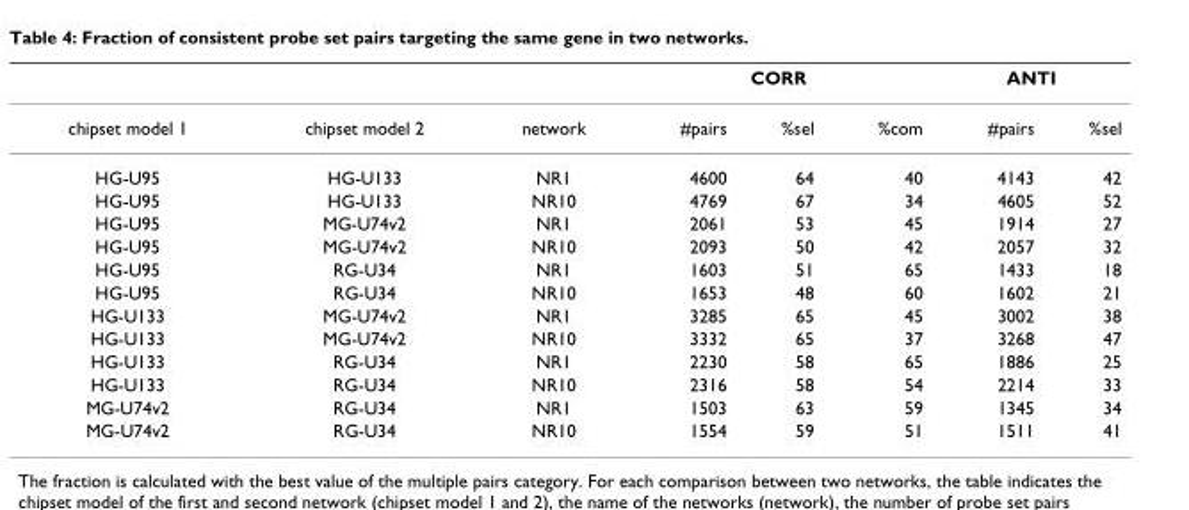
<table><thead><tr><td rowspan="2">chipset model 1</td><td rowspan="2">chipset model 2</td><td rowspan="2">network</td><td colspan="3">CORR</td><td colspan="2">ANTI</td></tr><tr><td>#pairs</td><td>%sel</td><td>%com</td><td>#pairs</td><td>%sel</td></tr></thead><tbody><tr><td>HG-U95</td><td>HG-U133</td><td>NR1</td><td>4600</td><td>64</td><td>40</td><td>4143</td><td>42</td></tr><tr><td>HG-U95</td><td>HG-U133</td><td>NR10</td><td>4769</td><td>67</td><td>34</td><td>4605</td><td>52</td></tr><tr><td>HG-U95</td><td>MG-U74v2</td><td>NR1</td><td>2061</td><td>53</td><td>45</td><td>1914</td><td>27</td></tr><tr><td>HG-U95</td><td>MG-U74v2</td><td>NR10</td><td>2093</td><td>50</td><td>42</td><td>2057</td><td>32</td></tr><tr><td>HG-U95</td><td>RG-U34</td><td>NR1</td><td>1603</td><td>51</td><td>65</td><td>1433</td><td>18</td></tr><tr><td>HG-U95</td><td>RG-U34</td><td>NR10</td><td>1653</td><td>48</td><td>60</td><td>1602</td><td>21</td></tr><tr><td>HG-U133</td><td>MG-U74v2</td><td>NR1</td><td>3285</td><td>65</td><td>45</td><td>3002</td><td>38</td></tr><tr><td>HG-U133</td><td>MG-U74v2</td><td>NR10</td><td>3332</td><td>65</td><td>37</td><td>3268</td><td>47</td></tr><tr><td>HG-U133</td><td>RG-U34</td><td>NR1</td><td>2230</td><td>58</td><td>65</td><td>1886</td><td>25</td></tr><tr><td>HG-U133</td><td>RG-U34</td><td>NR10</td><td>2316</td><td>58</td><td>54</td><td>2214</td><td>33</td></tr><tr><td>MG-U74v2</td><td>RG-U34</td><td>NR1</td><td>1503</td><td>63</td><td>59</td><td>1345</td><td>34</td></tr><tr><td>MG-U74v2</td><td>RG-U34</td><td>NR10</td><td>1554</td><td>59</td><td>51</td><td>1511</td><td>41</td></tr></tbody></table>